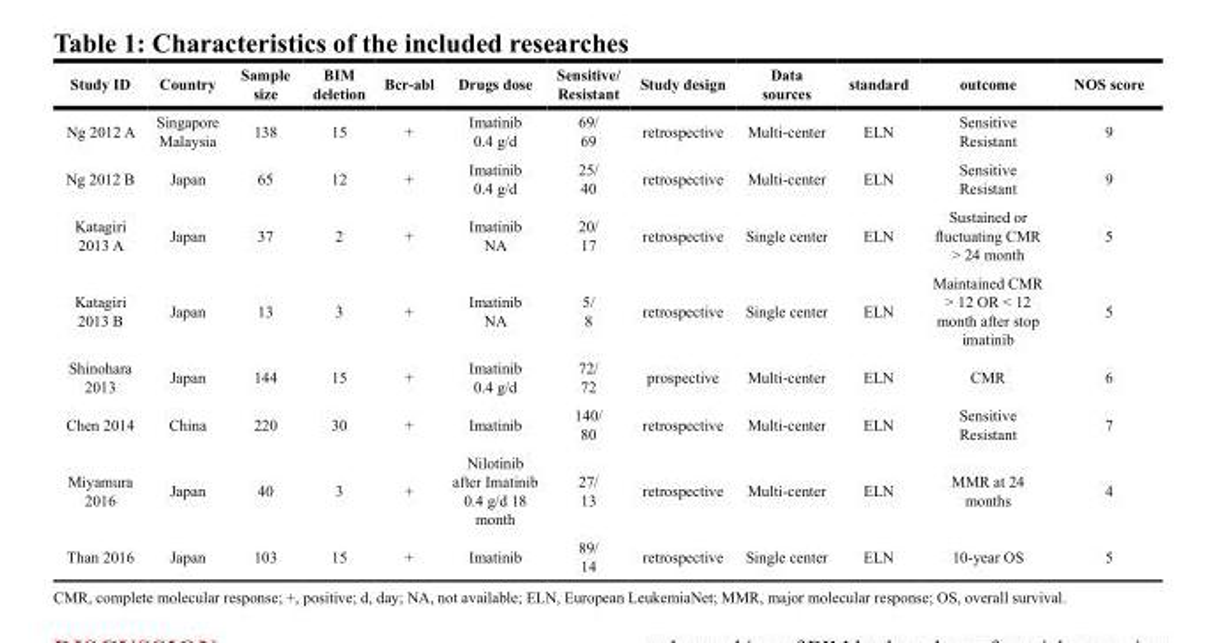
<table><thead><tr><td>Study ID</td><td>Country</td><td>Sample size</td><td>BIM deletion</td><td>Bcr-abl</td><td>Drugs dose</td><td>Sensitive/ Resistant</td><td>Study design</td><td>Data sources</td><td>standard</td><td>outcome</td><td>NOS score</td></tr></thead><tbody><tr><td>Ng 2012 A</td><td>Singapore Malaysia</td><td>138</td><td>15</td><td>+</td><td>Imatinib 0.4 g/d</td><td>69/ 69</td><td>retrospective</td><td>Multi-center</td><td>ELN</td><td>Sensitive Resistant</td><td>9</td></tr><tr><td>Ng 2012 B</td><td>Japan</td><td>65</td><td>12</td><td>+</td><td>Imatinib 0.4 g/d</td><td>25/ 40</td><td>retrospective</td><td>Multi-center</td><td>ELN</td><td>Sensitive Resistant</td><td>9</td></tr><tr><td>Katagiri 2013 A</td><td>Japan</td><td>37</td><td>2</td><td>+</td><td>Imatinib NA</td><td>20/ 17</td><td>retrospective</td><td>Single center</td><td>ELN</td><td>Sustained or fluctuating CMR &gt; 24 month</td><td>5</td></tr><tr><td>Katagiri 2013 B</td><td>Japan</td><td>13</td><td>3</td><td>+</td><td>Imatinib NA</td><td>5/ 8</td><td>retrospective</td><td>Single center</td><td>ELN</td><td>Maintained CMR &gt; 12 OR &lt; 12 month after stop imatinib</td><td>5</td></tr><tr><td>Shinohara 2013</td><td>Japan</td><td>144</td><td>15</td><td>+</td><td>Imatinib 0.4 g/d</td><td>72/ 72</td><td>prospective</td><td>Multi-center</td><td>ELN</td><td>CMR</td><td>6</td></tr><tr><td>Chen 2014</td><td>China</td><td>220</td><td>30</td><td>+</td><td>Imatinib</td><td>140/ 80</td><td>retrospective</td><td>Multi-center</td><td>ELN</td><td>Sensitive Resistant</td><td>7</td></tr><tr><td>Miyamura 2016</td><td>Japan</td><td>40</td><td>3</td><td>+</td><td>Nilotinib after Imatinib 0.4 g/d 18 month</td><td>27/ 13</td><td>retrospective</td><td>Multi-center</td><td>ELN</td><td>MMR at 24 months</td><td>4</td></tr><tr><td>Than 2016</td><td>Japan</td><td>103</td><td>15</td><td>+</td><td>Imatinib</td><td>89/ 14</td><td>retrospective</td><td>Single center</td><td>ELN</td><td>10-year OS</td><td>5</td></tr></tbody></table>